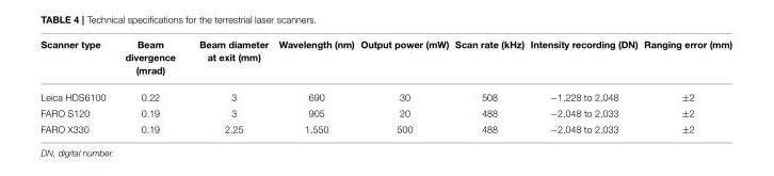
<table><thead><tr><td>Scanner type</td><td>Beam divergence (mrad)</td><td>Beam diameter at exit (mm)</td><td>Wavelength (nm)</td><td>Output power (mW)</td><td>Scan rate (kHz)</td><td>Intensity recording (DN)</td><td>Ranging error (mm)</td></tr></thead><tbody><tr><td>Leica HDS6100</td><td>0.22</td><td>3</td><td>690</td><td>30</td><td>508</td><td>−1,228 to 2,048</td><td>±2</td></tr><tr><td>FARO S120</td><td>0.19</td><td>3</td><td>905</td><td>20</td><td>488</td><td>−2,048 to 2,033</td><td>±2</td></tr><tr><td>FARO X330</td><td>0.19</td><td>2.25</td><td>1,550</td><td>500</td><td>488</td><td>−2,048 to 2,033</td><td>±2</td></tr></tbody></table>